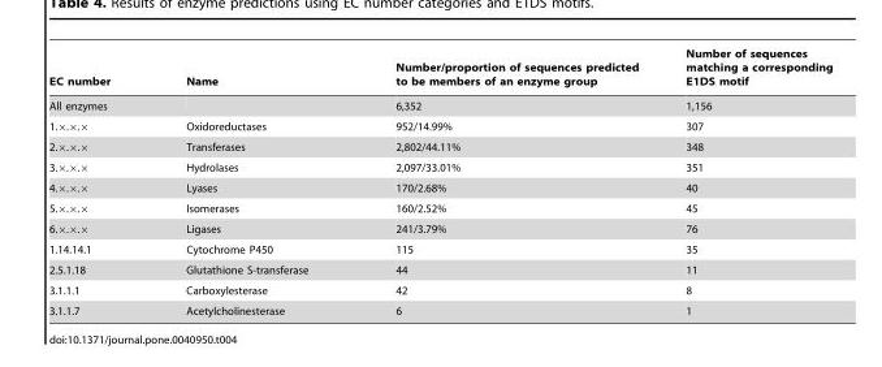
<table><thead><tr><td>EC number</td><td>Name</td><td>Number/proportion of sequences predicted to be members of an enzyme group</td><td>Number of sequences matching a corresponding E1DS motif</td></tr></thead><tbody><tr><td>All enzymes</td><td></td><td>6,352</td><td>1,156</td></tr><tr><td>1.×.×.×</td><td>Oxidoreductases</td><td>952/14.99%</td><td>307</td></tr><tr><td>2.×.×.×</td><td>Transferases</td><td>2,802/44.11%</td><td>348</td></tr><tr><td>3.×.×.×</td><td>Hydrolases</td><td>2,097/33.01%</td><td>351</td></tr><tr><td>4.×.×.×</td><td>Lyases</td><td>170/2.68%</td><td>40</td></tr><tr><td>5.×.×.×</td><td>Isomerases</td><td>160/2.52%</td><td>45</td></tr><tr><td>6.×.×.×</td><td>Ligases</td><td>241/3.79%</td><td>76</td></tr><tr><td>1.14.14.1</td><td>Cytochrome P450</td><td>115</td><td>35</td></tr><tr><td>2.5.1.18</td><td>Glutathione S-transferase</td><td>44</td><td>11</td></tr><tr><td>3.1.1.1</td><td>Carboxylesterase</td><td>42</td><td>8</td></tr><tr><td>3.1.1.7</td><td>Acetylcholinesterase</td><td>6</td><td>1</td></tr></tbody></table>